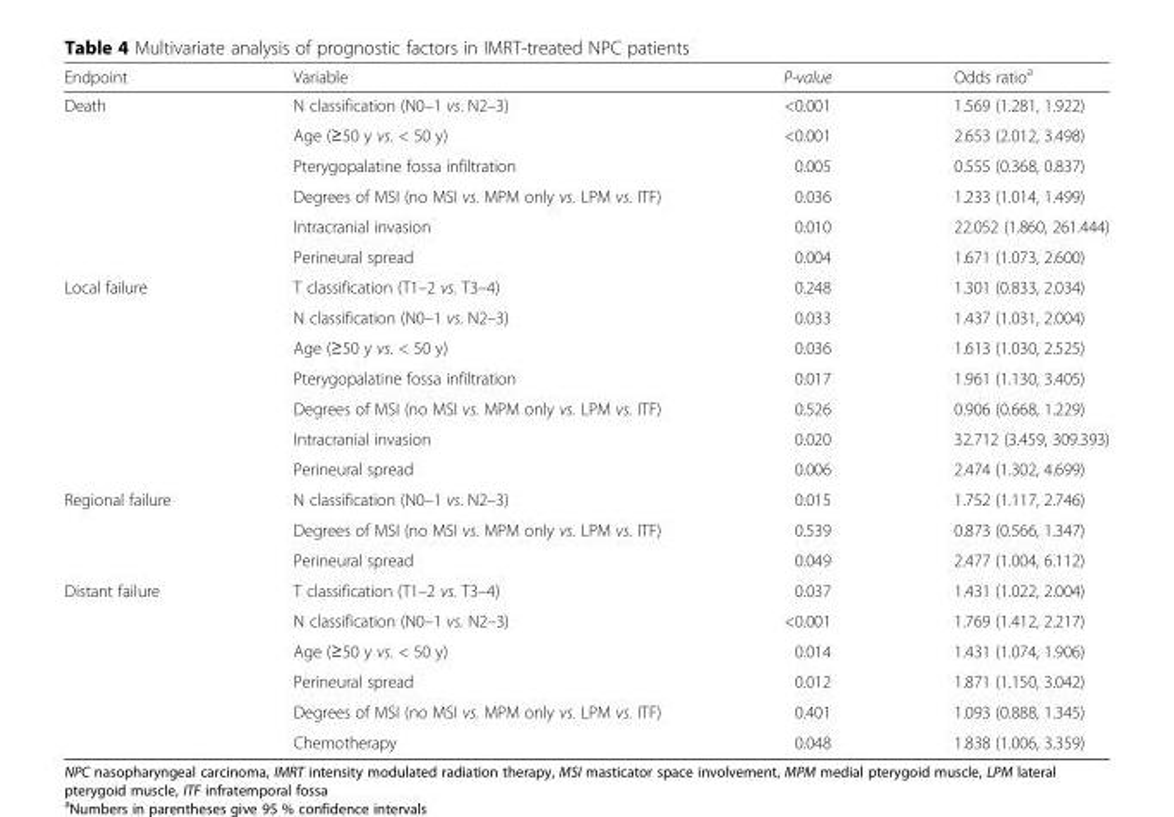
<table><thead><tr><td>Endpoint</td><td>Variable</td><td>P-value</td><td>Odds ratio<sup>a</sup></td></tr></thead><tbody><tr><td rowspan="6">Death</td><td>N classification (N0–1 vs. N2–3)</td><td>&lt;0.001</td><td>1.569 (1.281, 1.922)</td></tr><tr><td>Age (≥50 y vs. &lt; 50 y)</td><td>&lt;0.001</td><td>2.653 (2.012, 3.498)</td></tr><tr><td>Pterygopalatine fossa infiltration</td><td>0.005</td><td>0.555 (0.368, 0.837)</td></tr><tr><td>Degrees of MSI (no MSI vs. MPM only vs. LPM vs. ITF)</td><td>0.036</td><td>1.233 (1.014, 1.499)</td></tr><tr><td>Intracranial invasion</td><td>0.010</td><td>22.052 (1.860, 261.444)</td></tr><tr><td>Perineural spread</td><td>0.004</td><td>1.671 (1.073, 2.600)</td></tr><tr><td rowspan="7">Local failure</td><td>T classification (T1–2 vs. T3–4)</td><td>0.248</td><td>1.301 (0.833, 2.034)</td></tr><tr><td>N classification (N0–1 vs. N2–3)</td><td>0.033</td><td>1.437 (1.031, 2.004)</td></tr><tr><td>Age (≥50 y vs. &lt; 50 y)</td><td>0.036</td><td>1.613 (1.030, 2.525)</td></tr><tr><td>Pterygopalatine fossa infiltration</td><td>0.017</td><td>1.961 (1.130, 3.405)</td></tr><tr><td>Degrees of MSI (no MSI vs. MPM only vs. LPM vs. ITF)</td><td>0.526</td><td>0.906 (0.668, 1.229)</td></tr><tr><td>Intracranial invasion</td><td>0.020</td><td>32.712 (3.459, 309.393)</td></tr><tr><td>Perineural spread</td><td>0.006</td><td>2.474 (1.302, 4.699)</td></tr><tr><td rowspan="3">Regional failure</td><td>N classification (N0–1 vs. N2–3)</td><td>0.015</td><td>1.752 (1.117, 2.746)</td></tr><tr><td>Degrees of MSI (no MSI vs. MPM only vs. LPM vs. ITF)</td><td>0.539</td><td>0.873 (0.566, 1.347)</td></tr><tr><td>Perineural spread</td><td>0.049</td><td>2.477 (1.004, 6.112)</td></tr><tr><td rowspan="6">Distant failure</td><td>T classification (T1–2 vs. T3–4)</td><td>0.037</td><td>1.431 (1.022, 2.004)</td></tr><tr><td>N classification (N0–1 vs. N2–3)</td><td>&lt;0.001</td><td>1.769 (1.412, 2.217)</td></tr><tr><td>Age (≥50 y vs. &lt; 50 y)</td><td>0.014</td><td>1.431 (1.074, 1.906)</td></tr><tr><td>Perineural spread</td><td>0.012</td><td>1.871 (1.150, 3.042)</td></tr><tr><td>Degrees of MSI (no MSI vs. MPM only vs. LPM vs. ITF)</td><td>0.401</td><td>1.093 (0.888, 1.345)</td></tr><tr><td>Chemotherapy</td><td>0.048</td><td>1.838 (1.006, 3.359)</td></tr></tbody></table>